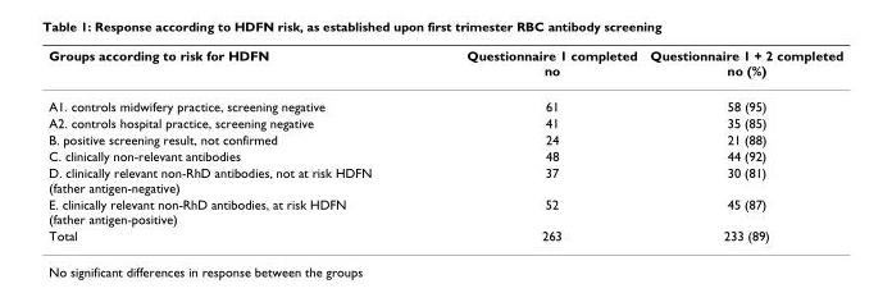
<table><thead><tr><td>Groups according to risk for HDFN</td><td>Questionnaire 1 completed no</td><td>Questionnaire 1 + 2 completed no (%)</td></tr></thead><tbody><tr><td>A1. controls midwifery practice, screening negative</td><td>61</td><td>58 (95)</td></tr><tr><td>A2. controls hospital practice, screening negative</td><td>41</td><td>35 (85)</td></tr><tr><td>B. positive screening result, not confirmed</td><td>24</td><td>21 (88)</td></tr><tr><td>C. clinically non-relevant antibodies</td><td>48</td><td>44 (92)</td></tr><tr><td>D. clinically relevant non-RhD antibodies, not at risk HDFN (father antigen-negative)</td><td>37</td><td>30 (81)</td></tr><tr><td>E. clinically relevant non-RhD antibodies, at risk HDFN (father antigen-positive)</td><td>52</td><td>45 (87)</td></tr><tr><td>Total</td><td>263</td><td>233 (89)</td></tr></tbody></table>